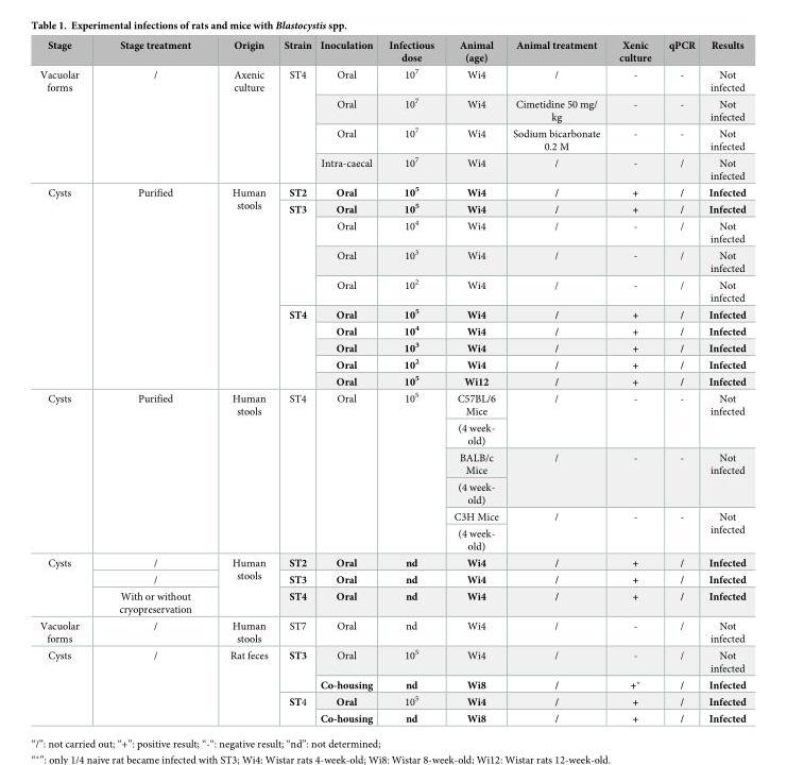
<table><thead><tr><td>Stage</td><td>Stage treatment</td><td>Origin</td><td>Strain</td><td>Inoculation</td><td>Infectious dose</td><td>Animal (age)</td><td>Animal treatment</td><td>Xenic culture</td><td>qPCR</td><td>Results</td></tr></thead><tbody><tr><td rowspan="4">Vacuolar forms</td><td rowspan="4">/</td><td rowspan="4">Axenic culture</td><td rowspan="4">ST4</td><td>Oral</td><td>10<sup>7</sup></td><td>Wi4</td><td>/</td><td>-</td><td>-</td><td>Not infected</td></tr><tr><td>Oral</td><td>10<sup>7</sup></td><td>Wi4</td><td>Cimetidine 50 mg/ kg</td><td>-</td><td>-</td><td>Not infected</td></tr><tr><td>Oral</td><td>10<sup>7</sup></td><td>Wi4</td><td>Sodium bicarbonate 0.2 M</td><td>-</td><td>-</td><td>Not infected</td></tr><tr><td>Intra-caecal</td><td>10<sup>7</sup></td><td>Wi4</td><td>/</td><td>-</td><td>/</td><td>Not infected</td></tr><tr><td rowspan="10">Cysts</td><td rowspan="10">Purified</td><td rowspan="10">Human stools</td><td>ST2</td><td>Oral</td><td>10<sup>5</sup></td><td>Wi4</td><td>/</td><td>+</td><td>/</td><td>Infected</td></tr><tr><td rowspan="4">ST3</td><td>Oral</td><td>10<sup>5</sup></td><td>Wi4</td><td>/</td><td>+</td><td>/</td><td>Infected</td></tr><tr><td>Oral</td><td>10<sup>4</sup></td><td>Wi4</td><td>/</td><td>-</td><td>/</td><td>Not infected</td></tr><tr><td>Oral</td><td>10<sup>3</sup></td><td>Wi4</td><td>/</td><td>-</td><td>/</td><td>Not infected</td></tr><tr><td>Oral</td><td>10<sup>2</sup></td><td>Wi4</td><td>/</td><td>-</td><td>/</td><td>Not infected</td></tr><tr><td rowspan="5">ST4</td><td>Oral</td><td>10<sup>5</sup></td><td>Wi4</td><td>/</td><td>+</td><td>/</td><td>Infected</td></tr><tr><td>Oral</td><td>10<sup>4</sup></td><td>Wi4</td><td>/</td><td>+</td><td>/</td><td>Infected</td></tr><tr><td>Oral</td><td>10<sup>3</sup></td><td>Wi4</td><td>/</td><td>+</td><td>/</td><td>Infected</td></tr><tr><td>Oral</td><td>10<sup>2</sup></td><td>Wi4</td><td>/</td><td>+</td><td>/</td><td>Infected</td></tr><tr><td>Oral</td><td>10<sup>5</sup></td><td>Wi12</td><td>/</td><td>+</td><td>/</td><td>Infected</td></tr><tr><td rowspan="6">Cysts</td><td rowspan="6">Purified</td><td rowspan="6">Human stools</td><td rowspan="6">ST4</td><td rowspan="6">Oral</td><td rowspan="6">10<sup>5</sup></td><td>C57BL/6 Mice</td><td rowspan="2">/</td><td rowspan="2">-</td><td rowspan="2">-</td><td rowspan="2">Not infected</td></tr><tr><td>(4 week- old)</td></tr><tr><td>BALB/c Mice</td><td rowspan="2">/</td><td rowspan="2">-</td><td rowspan="2">-</td><td rowspan="2">Not infected</td></tr><tr><td>(4 week- old)</td></tr><tr><td>C3H Mice</td><td rowspan="2">/</td><td rowspan="2">-</td><td rowspan="2">-</td><td rowspan="2">Not infected</td></tr><tr><td>(4 week- old)</td></tr><tr><td rowspan="3">Cysts</td><td>/</td><td rowspan="3">Human stools</td><td>ST2</td><td>Oral</td><td>nd</td><td>Wi4</td><td>/</td><td>+</td><td>/</td><td>Infected</td></tr><tr><td>/</td><td>ST3</td><td>Oral</td><td>nd</td><td>Wi4</td><td>/</td><td>+</td><td>/</td><td>Infected</td></tr><tr><td>With or without cryopreservation</td><td>ST4</td><td>Oral</td><td>nd</td><td>Wi4</td><td>/</td><td>+</td><td>/</td><td>Infected</td></tr><tr><td>Vacuolar forms</td><td>/</td><td>Human stools</td><td>ST7</td><td>Oral</td><td>nd</td><td>Wi4</td><td>/</td><td>-</td><td>/</td><td>Not infected</td></tr><tr><td rowspan="4">Cysts</td><td rowspan="4">/</td><td rowspan="4">Rat feces</td><td rowspan="2">ST3</td><td>Oral</td><td>10<sup>5</sup></td><td>Wi4</td><td>/</td><td>-</td><td>/</td><td>Not infected</td></tr><tr><td>Co-housing</td><td>nd</td><td>Wi8</td><td>/</td><td>+*</td><td>/</td><td>Infected</td></tr><tr><td rowspan="2">ST4</td><td>Oral</td><td>10<sup>5</sup></td><td>Wi4</td><td>/</td><td>+</td><td>/</td><td>Infected</td></tr><tr><td>Co-housing</td><td>nd</td><td>Wi8</td><td>/</td><td>+</td><td>/</td><td>Infected</td></tr></tbody></table>